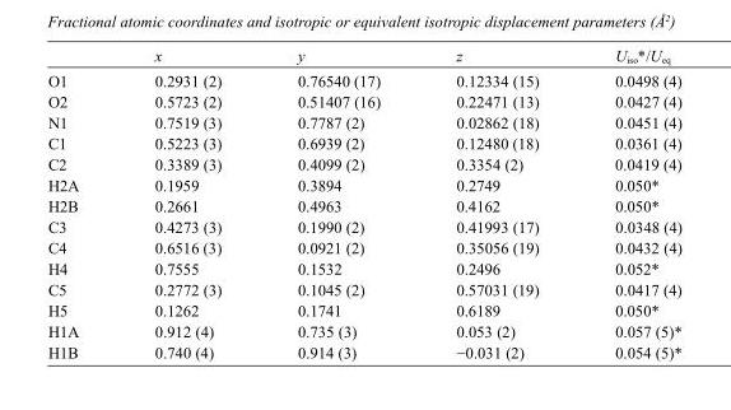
<table><thead><tr><td></td><td>x</td><td>y</td><td>z</td><td>U<sub>iso</sub>*/U<sub>eq</sub></td></tr></thead><tbody><tr><td>O1</td><td>0.2931 (2)</td><td>0.76540 (17)</td><td>0.12334 (15)</td><td>0.0498 (4)</td></tr><tr><td>O2</td><td>0.5723 (2)</td><td>0.51407 (16)</td><td>0.22471 (13)</td><td>0.0427 (4)</td></tr><tr><td>N1</td><td>0.7519 (3)</td><td>0.7787 (2)</td><td>0.02862 (18)</td><td>0.0451 (4)</td></tr><tr><td>C1</td><td>0.5223 (3)</td><td>0.6939 (2)</td><td>0.12480 (18)</td><td>0.0361 (4)</td></tr><tr><td>C2</td><td>0.3389 (3)</td><td>0.4099 (2)</td><td>0.3354 (2)</td><td>0.0419 (4)</td></tr><tr><td>H2A</td><td>0.1959</td><td>0.3894</td><td>0.2749</td><td>0.050*</td></tr><tr><td>H2B</td><td>0.2661</td><td>0.4963</td><td>0.4162</td><td>0.050*</td></tr><tr><td>C3</td><td>0.4273 (3)</td><td>0.1990 (2)</td><td>0.41993 (17)</td><td>0.0348 (4)</td></tr><tr><td>C4</td><td>0.6516 (3)</td><td>0.0921 (2)</td><td>0.35056 (19)</td><td>0.0432 (4)</td></tr><tr><td>H4</td><td>0.7555</td><td>0.1532</td><td>0.2496</td><td>0.052*</td></tr><tr><td>C5</td><td>0.2772 (3)</td><td>0.1045 (2)</td><td>0.57031 (19)</td><td>0.0417 (4)</td></tr><tr><td>H5</td><td>0.1262</td><td>0.1741</td><td>0.6189</td><td>0.050*</td></tr><tr><td>H1A</td><td>0.912 (4)</td><td>0.735 (3)</td><td>0.053 (2)</td><td>0.057 (5)*</td></tr><tr><td>H1B</td><td>0.740 (4)</td><td>0.914 (3)</td><td>−0.031 (2)</td><td>0.054 (5)*</td></tr></tbody></table>